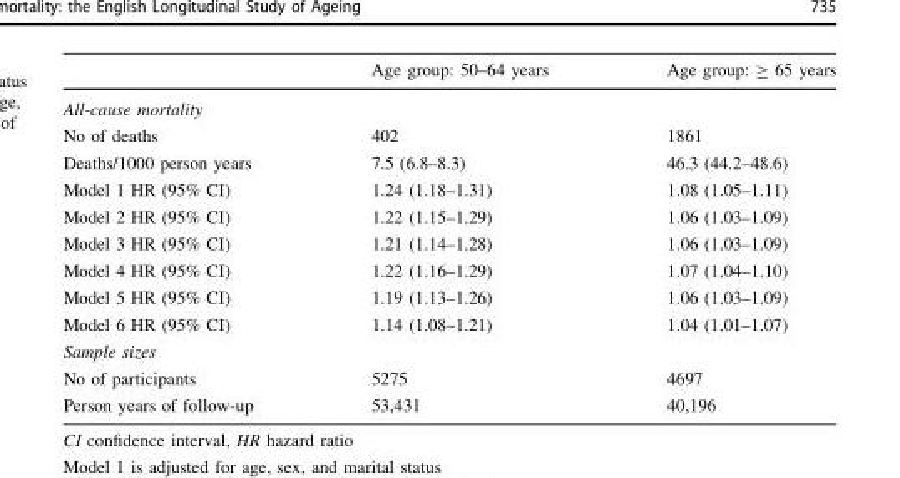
<table><thead><tr><td></td><td>Age group: 50–64 years</td><td>Age group: ≥ 65 years</td></tr></thead><tbody><tr><td colspan="3">All-cause mortality</td></tr><tr><td>No of deaths</td><td>402</td><td>1861</td></tr><tr><td>Deaths/1000 person years</td><td>7.5 (6.8–8.3)</td><td>46.3 (44.2–48.6)</td></tr><tr><td>Model 1 HR (95% CI)</td><td>1.24 (1.18–1.31)</td><td>1.08 (1.05–1.11)</td></tr><tr><td>Model 2 HR (95% CI)</td><td>1.22 (1.15–1.29)</td><td>1.06 (1.03–1.09)</td></tr><tr><td>Model 3 HR (95% CI)</td><td>1.21 (1.14–1.28)</td><td>1.06 (1.03–1.09)</td></tr><tr><td>Model 4 HR (95% CI)</td><td>1.22 (1.16–1.29)</td><td>1.07 (1.04–1.10)</td></tr><tr><td>Model 5 HR (95% CI)</td><td>1.19 (1.13–1.26)</td><td>1.06 (1.03–1.09)</td></tr><tr><td>Model 6 HR (95% CI)</td><td>1.14 (1.08–1.21)</td><td>1.04 (1.01–1.07)</td></tr><tr><td colspan="3">Sample sizes</td></tr><tr><td>No of participants</td><td>5275</td><td>4697</td></tr><tr><td>Person years of follow-up</td><td>53,431</td><td>40,196</td></tr></tbody></table>